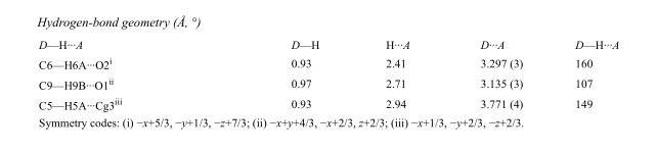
<table><tbody><tr><td>D—H···A</td><td>D—H</td><td>H···A</td><td>D···A</td><td>D—H···A</td></tr><tr><td>C6—H6A···O2<sup>i</sup></td><td>0.93</td><td>2.41</td><td>3.297 (3)</td><td>160</td></tr><tr><td>C9—H9B···O1<sup>ii</sup></td><td>0.97</td><td>2.71</td><td>3.135 (3)</td><td>107</td></tr><tr><td>C5—H5A···Cg3<sup>iii</sup></td><td>0.93</td><td>2.94</td><td>3.771 (4)</td><td>149</td></tr></tbody></table>